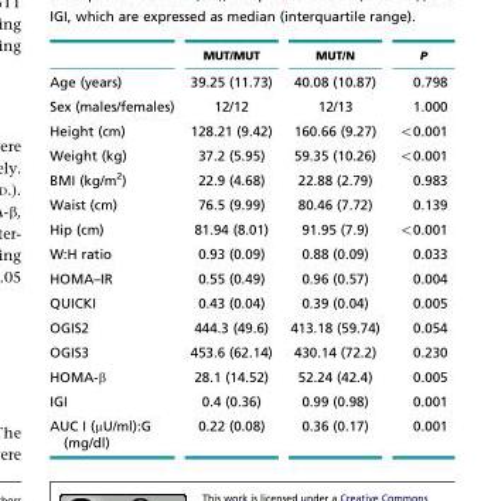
<table><thead><tr><td></td><td>MUT/MUT</td><td>MUT/N</td><td>P</td></tr></thead><tbody><tr><td>Age (years)</td><td>39.25 (11.73)</td><td>40.08 (10.87)</td><td>0.798</td></tr><tr><td>Sex (males/females)</td><td>12/12</td><td>12/13</td><td>1.000</td></tr><tr><td>Height (cm)</td><td>128.21 (9.42)</td><td>160.66 (9.27)</td><td>&lt;0.001</td></tr><tr><td>Weight (kg)</td><td>37.2 (5.95)</td><td>59.35 (10.26)</td><td>&lt;0.001</td></tr><tr><td>BMI (kg/m<sup>2</sup>)</td><td>22.9 (4.68)</td><td>22.88 (2.79)</td><td>0.983</td></tr><tr><td>Waist (cm)</td><td>76.5 (9.99)</td><td>80.46 (7.72)</td><td>0.139</td></tr><tr><td>Hip (cm)</td><td>81.94 (8.01)</td><td>91.95 (7.9)</td><td>&lt;0.001</td></tr><tr><td>W:H ratio</td><td>0.93 (0.09)</td><td>0.88 (0.09)</td><td>0.033</td></tr><tr><td>HOMA–IR</td><td>0.55 (0.49)</td><td>0.96 (0.57)</td><td>0.004</td></tr><tr><td>QUICKI</td><td>0.43 (0.04)</td><td>0.39 (0.04)</td><td>0.005</td></tr><tr><td>OGIS2</td><td>444.3 (49.6)</td><td>413.18 (59.74)</td><td>0.054</td></tr><tr><td>OGIS3</td><td>453.6 (62.14)</td><td>430.14 (72.2)</td><td>0.230</td></tr><tr><td>HOMA-β</td><td>28.1 (14.52)</td><td>52.24 (42.4)</td><td>0.005</td></tr><tr><td>IGI</td><td>0.4 (0.36)</td><td>0.99 (0.98)</td><td>0.001</td></tr><tr><td>AUC I (μU/ml):G (mg/dl)</td><td>0.22 (0.08)</td><td>0.36 (0.17)</td><td>0.001</td></tr></tbody></table>